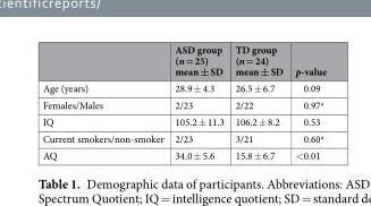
<table><thead><tr><td></td><td>ASD group (n = 25) mean ± SD</td><td>TD group (n = 24) mean ± SD</td><td>p-value</td></tr></thead><tbody><tr><td>Age (years)</td><td>28.9 ± 4.3</td><td>26.5 ± 6.7</td><td>0.09</td></tr><tr><td>Females/Males</td><td>2/23</td><td>2/22</td><td>0.97<sup>a</sup></td></tr><tr><td>IQ</td><td>105.2 ± 11.3</td><td>106.2 ± 8.2</td><td>0.53</td></tr><tr><td>Current smokers/non-smoker</td><td>2/23</td><td>3/21</td><td>0.60<sup>a</sup></td></tr><tr><td>AQ</td><td>34.0 ± 5.6</td><td>15.8 ± 6.7</td><td>&lt;0.01</td></tr></tbody></table>